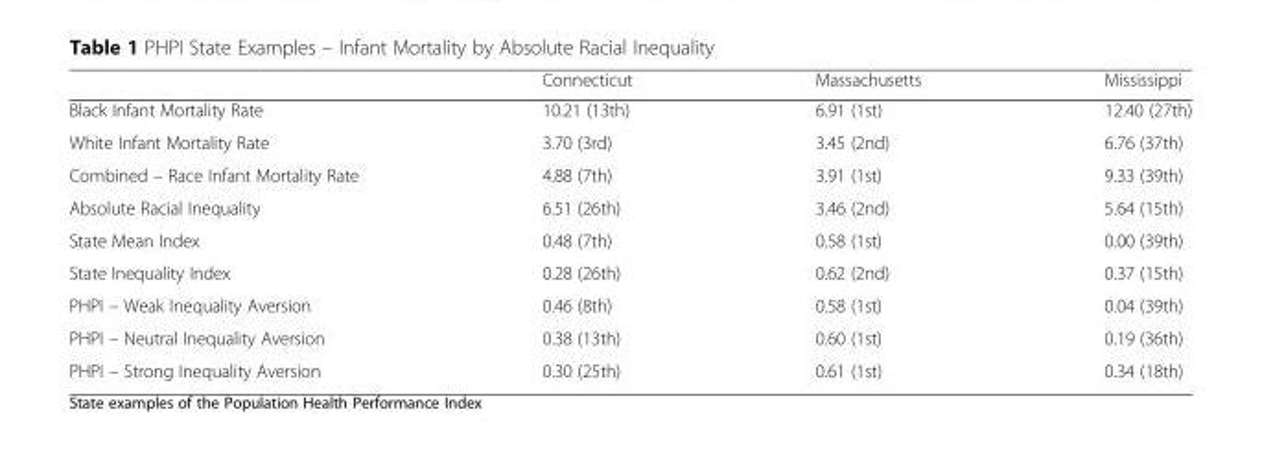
<table><thead><tr><td></td><td>Connecticut</td><td>Massachusetts</td><td>Mississippi</td></tr></thead><tbody><tr><td>Black Infant Mortality Rate</td><td>10.21 (13th)</td><td>6.91 (1st)</td><td>12.40 (27th)</td></tr><tr><td>White Infant Mortality Rate</td><td>3.70 (3rd)</td><td>3.45 (2nd)</td><td>6.76 (37th)</td></tr><tr><td>Combined – Race Infant Mortality Rate</td><td>4.88 (7th)</td><td>3.91 (1st)</td><td>9.33 (39th)</td></tr><tr><td>Absolute Racial Inequality</td><td>6.51 (26th)</td><td>3.46 (2nd)</td><td>5.64 (15th)</td></tr><tr><td>State Mean Index</td><td>0.48 (7th)</td><td>0.58 (1st)</td><td>0.00 (39th)</td></tr><tr><td>State Inequality Index</td><td>0.28 (26th)</td><td>0.62 (2nd)</td><td>0.37 (15th)</td></tr><tr><td>PHPI – Weak Inequality Aversion</td><td>0.46 (8th)</td><td>0.58 (1st)</td><td>0.04 (39th)</td></tr><tr><td>PHPI – Neutral Inequality Aversion</td><td>0.38 (13th)</td><td>0.60 (1st)</td><td>0.19 (36th)</td></tr><tr><td>PHPI – Strong Inequality Aversion</td><td>0.30 (25th)</td><td>0.61 (1st)</td><td>0.34 (18th)</td></tr></tbody></table>